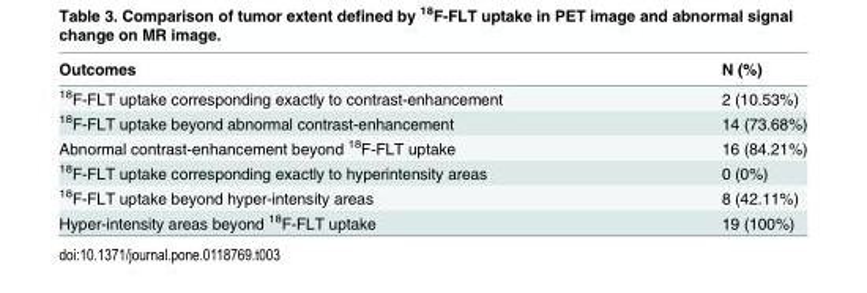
<table><thead><tr><td>Outcomes</td><td>N (%)</td></tr></thead><tbody><tr><td><sup>18</sup>F-FLT uptake corresponding exactly to contrast-enhancement</td><td>2 (10.53%)</td></tr><tr><td><sup>18</sup>F-FLT uptake beyond abnormal contrast-enhancement</td><td>14 (73.68%)</td></tr><tr><td>Abnormal contrast-enhancement beyond <sup>18</sup>F-FLT uptake</td><td>16 (84.21%)</td></tr><tr><td><sup>18</sup>F-FLT uptake corresponding exactly to hyperintensity areas</td><td>0 (0%)</td></tr><tr><td><sup>18</sup>F-FLT uptake beyond hyper-intensity areas</td><td>8 (42.11%)</td></tr><tr><td>Hyper-intensity areas beyond <sup>18</sup>F-FLT uptake</td><td>19 (100%)</td></tr></tbody></table>